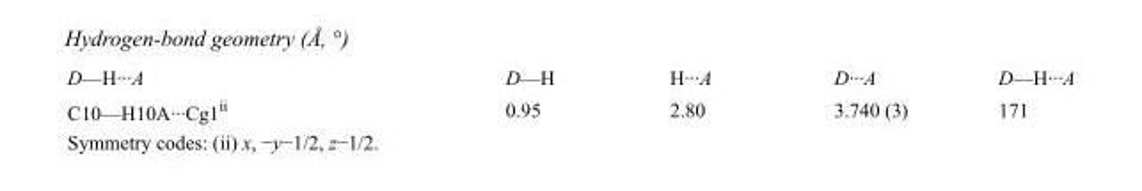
<table><tbody><tr><td>D—H···A</td><td>D—H</td><td>H···A</td><td>D···A</td><td>D—H···A</td></tr><tr><td>C10—H10A···Cg1<sup>ii</sup></td><td>0.95</td><td>2.80</td><td>3.740 (3)</td><td>171</td></tr></tbody></table>